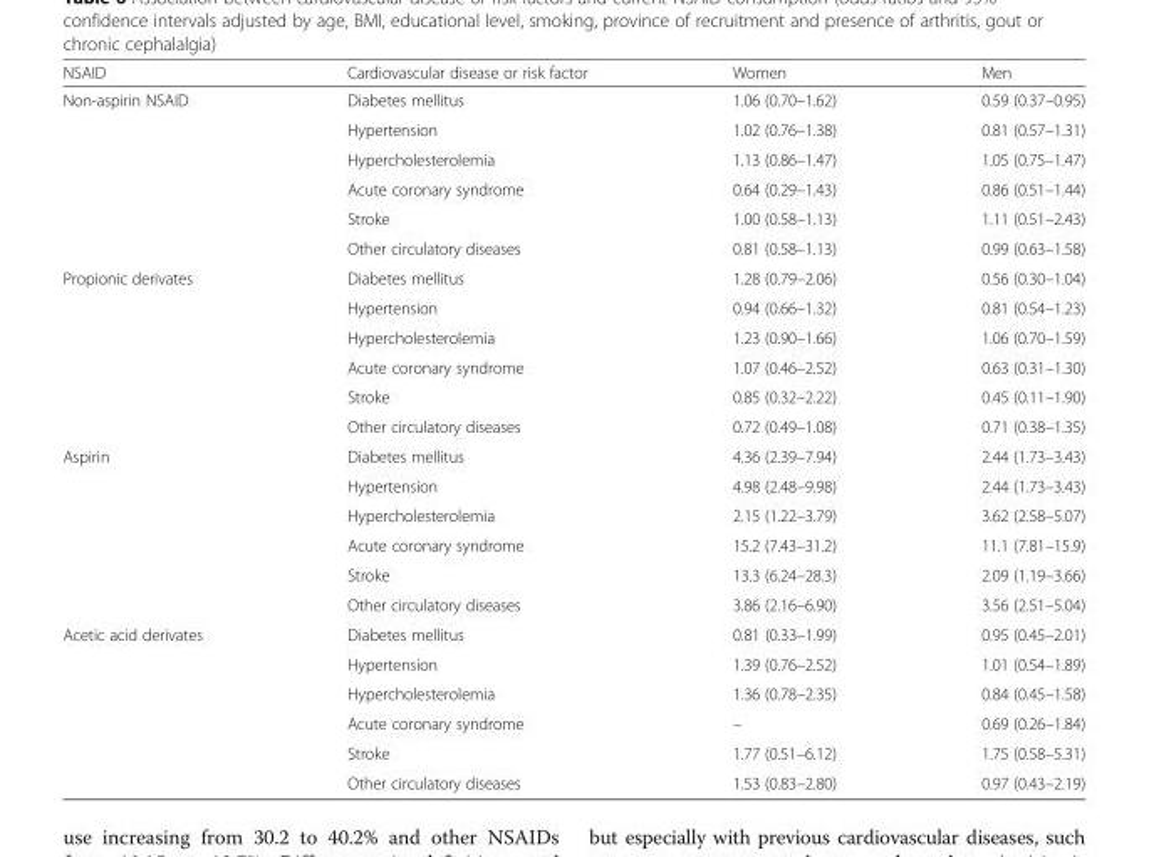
<table><thead><tr><td>NSAID</td><td>Cardiovascular disease or risk factor</td><td>Women</td><td>Men</td></tr></thead><tbody><tr><td rowspan="6">Non-aspirin NSAID</td><td>Diabetes mellitus</td><td>1.06 (0.70–1.62)</td><td>0.59 (0.37–0.95)</td></tr><tr><td>Hypertension</td><td>1.02 (0.76–1.38)</td><td>0.81 (0.57–1.31)</td></tr><tr><td>Hypercholesterolemia</td><td>1.13 (0.86–1.47)</td><td>1.05 (0.75–1.47)</td></tr><tr><td>Acute coronary syndrome</td><td>0.64 (0.29–1.43)</td><td>0.86 (0.51–1.44)</td></tr><tr><td>Stroke</td><td>1.00 (0.58–1.13)</td><td>1.11 (0.51–2.43)</td></tr><tr><td>Other circulatory diseases</td><td>0.81 (0.58–1.13)</td><td>0.99 (0.63–1.58)</td></tr><tr><td rowspan="6">Propionic derivates</td><td>Diabetes mellitus</td><td>1.28 (0.79–2.06)</td><td>0.56 (0.30–1.04)</td></tr><tr><td>Hypertension</td><td>0.94 (0.66–1.32)</td><td>0.81 (0.54–1.23)</td></tr><tr><td>Hypercholesterolemia</td><td>1.23 (0.90–1.66)</td><td>1.06 (0.70–1.59)</td></tr><tr><td>Acute coronary syndrome</td><td>1.07 (0.46–2.52)</td><td>0.63 (0.31–1.30)</td></tr><tr><td>Stroke</td><td>0.85 (0.32–2.22)</td><td>0.45 (0.11–1.90)</td></tr><tr><td>Other circulatory diseases</td><td>0.72 (0.49–1.08)</td><td>0.71 (0.38–1.35)</td></tr><tr><td rowspan="6">Aspirin</td><td>Diabetes mellitus</td><td>4.36 (2.39–7.94)</td><td>2.44 (1.73–3.43)</td></tr><tr><td>Hypertension</td><td>4.98 (2.48–9.98)</td><td>2.44 (1.73–3.43)</td></tr><tr><td>Hypercholesterolemia</td><td>2.15 (1.22–3.79)</td><td>3.62 (2.58–5.07)</td></tr><tr><td>Acute coronary syndrome</td><td>15.2 (7.43–31.2)</td><td>11.1 (7.81–15.9)</td></tr><tr><td>Stroke</td><td>13.3 (6.24–28.3)</td><td>2.09 (1.19–3.66)</td></tr><tr><td>Other circulatory diseases</td><td>3.86 (2.16–6.90)</td><td>3.56 (2.51–5.04)</td></tr><tr><td rowspan="6">Acetic acid derivates</td><td>Diabetes mellitus</td><td>0.81 (0.33–1.99)</td><td>0.95 (0.45–2.01)</td></tr><tr><td>Hypertension</td><td>1.39 (0.76–2.52)</td><td>1.01 (0.54–1.89)</td></tr><tr><td>Hypercholesterolemia</td><td>1.36 (0.78–2.35)</td><td>0.84 (0.45–1.58)</td></tr><tr><td>Acute coronary syndrome</td><td>–</td><td>0.69 (0.26–1.84)</td></tr><tr><td>Stroke</td><td>1.77 (0.51–6.12)</td><td>1.75 (0.58–5.31)</td></tr><tr><td>Other circulatory diseases</td><td>1.53 (0.83–2.80)</td><td>0.97 (0.43–2.19)</td></tr></tbody></table>